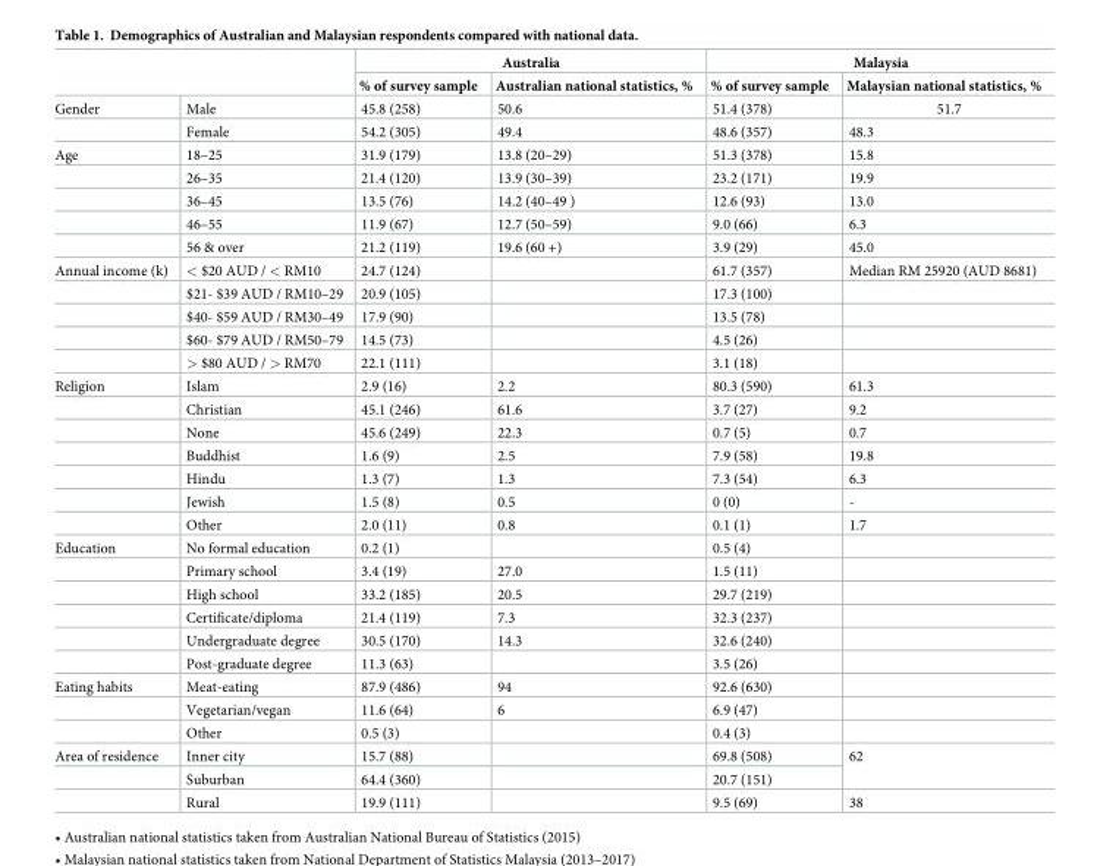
<table><thead><tr><td rowspan="2"></td><td rowspan="2"></td><td colspan="2">Australia</td><td colspan="2">Malaysia</td></tr><tr><td>% of survey sample</td><td>Australian national statistics, %</td><td>% of survey sample</td><td>Malaysian national statistics, %</td></tr></thead><tbody><tr><td rowspan="2">Gender</td><td>Male</td><td>45.8 (258)</td><td>50.6</td><td>51.4 (378)</td><td>51.7</td></tr><tr><td>Female</td><td>54.2 (305)</td><td>49.4</td><td>48.6 (357)</td><td>48.3</td></tr><tr><td rowspan="5">Age</td><td>18–25</td><td>31.9 (179)</td><td>13.8 (20–29)</td><td>51.3 (378)</td><td>15.8</td></tr><tr><td>26–35</td><td>21.4 (120)</td><td>13.9 (30–39)</td><td>23.2 (171)</td><td>19.9</td></tr><tr><td>36–45</td><td>13.5 (76)</td><td>14.2 (40–49 )</td><td>12.6 (93)</td><td>13.0</td></tr><tr><td>46–55</td><td>11.9 (67)</td><td>12.7 (50–59)</td><td>9.0 (66)</td><td>6.3</td></tr><tr><td>56 &amp; over</td><td>21.2 (119)</td><td>19.6 (60 +)</td><td>3.9 (29)</td><td>45.0</td></tr><tr><td rowspan="5">Annual income (k)</td><td>&lt; $20 AUD / &lt; RM10</td><td>24.7 (124)</td><td></td><td>61.7 (357)</td><td>Median RM 25920 (AUD 8681)</td></tr><tr><td>$21- $39 AUD / RM10–29</td><td>20.9 (105)</td><td></td><td>17.3 (100)</td><td></td></tr><tr><td>$40- $59 AUD / RM30–49</td><td>17.9 (90)</td><td></td><td>13.5 (78)</td><td></td></tr><tr><td>$60- $79 AUD / RM50–79</td><td>14.5 (73)</td><td></td><td>4.5 (26)</td><td></td></tr><tr><td>&gt; $80 AUD / &gt; RM70</td><td>22.1 (111)</td><td></td><td>3.1 (18)</td><td></td></tr><tr><td rowspan="7">Religion</td><td>Islam</td><td>2.9 (16)</td><td>2.2</td><td>80.3 (590)</td><td>61.3</td></tr><tr><td>Christian</td><td>45.1 (246)</td><td>61.6</td><td>3.7 (27)</td><td>9.2</td></tr><tr><td>None</td><td>45.6 (249)</td><td>22.3</td><td>0.7 (5)</td><td>0.7</td></tr><tr><td>Buddhist</td><td>1.6 (9)</td><td>2.5</td><td>7.9 (58)</td><td>19.8</td></tr><tr><td>Hindu</td><td>1.3 (7)</td><td>1.3</td><td>7.3 (54)</td><td>6.3</td></tr><tr><td>Jewish</td><td>1.5 (8)</td><td>0.5</td><td>0 (0)</td><td>-</td></tr><tr><td>Other</td><td>2.0 (11)</td><td>0.8</td><td>0.1 (1)</td><td>1.7</td></tr><tr><td rowspan="6">Education</td><td>No formal education</td><td>0.2 (1)</td><td></td><td>0.5 (4)</td><td></td></tr><tr><td>Primary school</td><td>3.4 (19)</td><td>27.0</td><td>1.5 (11)</td><td></td></tr><tr><td>High school</td><td>33.2 (185)</td><td>20.5</td><td>29.7 (219)</td><td></td></tr><tr><td>Certificate/diploma</td><td>21.4 (119)</td><td>7.3</td><td>32.3 (237)</td><td></td></tr><tr><td>Undergraduate degree</td><td>30.5 (170)</td><td>14.3</td><td>32.6 (240)</td><td></td></tr><tr><td>Post-graduate degree</td><td>11.3 (63)</td><td></td><td>3.5 (26)</td><td></td></tr><tr><td rowspan="3">Eating habits</td><td>Meat-eating</td><td>87.9 (486)</td><td>94</td><td>92.6 (630)</td><td></td></tr><tr><td>Vegetarian/vegan</td><td>11.6 (64)</td><td>6</td><td>6.9 (47)</td><td></td></tr><tr><td>Other</td><td>0.5 (3)</td><td></td><td>0.4 (3)</td><td></td></tr><tr><td rowspan="3">Area of residence</td><td>Inner city</td><td>15.7 (88)</td><td></td><td>69.8 (508)</td><td rowspan="2">62</td></tr><tr><td>Suburban</td><td>64.4 (360)</td><td></td><td>20.7 (151)</td></tr><tr><td>Rural</td><td>19.9 (111)</td><td></td><td>9.5 (69)</td><td>38</td></tr></tbody></table>